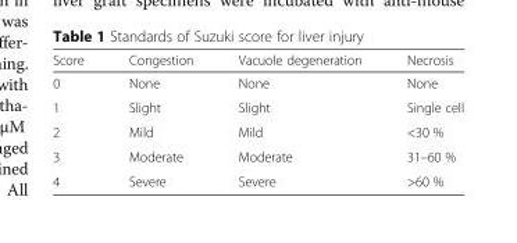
<table><thead><tr><td>Score</td><td>Congestion</td><td>Vacuole degeneration</td><td>Necrosis</td></tr></thead><tbody><tr><td>0</td><td>None</td><td>None</td><td>None</td></tr><tr><td>1</td><td>Slight</td><td>Slight</td><td>Single cell</td></tr><tr><td>2</td><td>Mild</td><td>Mild</td><td>&lt;30 %</td></tr><tr><td>3</td><td>Moderate</td><td>Moderate</td><td>31–60 %</td></tr><tr><td>4</td><td>Severe</td><td>Severe</td><td>&gt;60 %</td></tr></tbody></table>